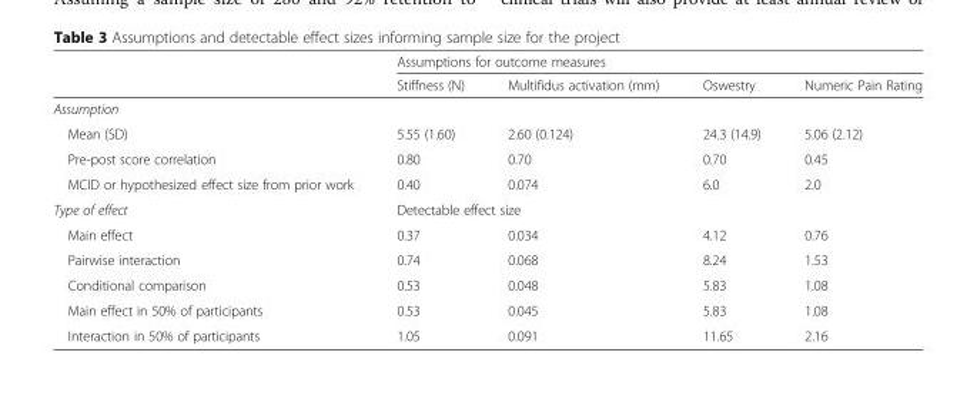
<table><thead><tr><td rowspan="2"></td><td colspan="4">Assumptions for outcome measures</td></tr><tr><td>Stiffness (N)</td><td>Multifidus activation (mm)</td><td>Oswestry</td><td>Numeric Pain Rating</td></tr></thead><tbody><tr><td colspan="5">Assumption</td></tr><tr><td>Mean (SD)</td><td>5.55 (1.60)</td><td>2.60 (0.124)</td><td>24.3 (14.9)</td><td>5.06 (2.12)</td></tr><tr><td>Pre-post score correlation</td><td>0.80</td><td>0.70</td><td>0.70</td><td>0.45</td></tr><tr><td>MCID or hypothesized effect size from prior work</td><td>0.40</td><td>0.074</td><td>6.0</td><td>2.0</td></tr><tr><td>Type of effect</td><td colspan="4">Detectable effect size</td></tr><tr><td>Main effect</td><td>0.37</td><td>0.034</td><td>4.12</td><td>0.76</td></tr><tr><td>Pairwise interaction</td><td>0.74</td><td>0.068</td><td>8.24</td><td>1.53</td></tr><tr><td>Conditional comparison</td><td>0.53</td><td>0.048</td><td>5.83</td><td>1.08</td></tr><tr><td>Main effect in 50% of participants</td><td>0.53</td><td>0.045</td><td>5.83</td><td>1.08</td></tr><tr><td>Interaction in 50% of participants</td><td>1.05</td><td>0.091</td><td>11.65</td><td>2.16</td></tr></tbody></table>